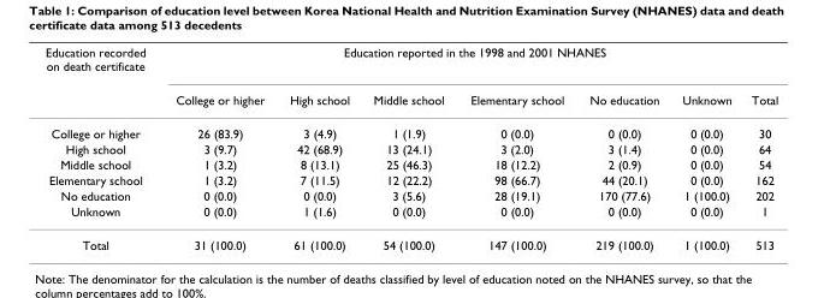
<table><thead><tr><td rowspan="2">Education recorded on death certificate</td><td colspan="7">Education reported in the 1998 and 2001 NHANES</td></tr><tr><td>College or higher</td><td>High school</td><td>Middle school</td><td>Elementary school</td><td>No education</td><td>Unknown</td><td>Total</td></tr></thead><tbody><tr><td>College or higher</td><td>26 (83.9)</td><td>3 (4.9)</td><td>1 (1.9)</td><td>0 (0.0)</td><td>0 (0.0)</td><td>0 (0.0)</td><td>30</td></tr><tr><td>High school</td><td>3 (9.7)</td><td>42 (68.9)</td><td>13 (24.1)</td><td>3 (2.0)</td><td>3 (1.4)</td><td>0 (0.0)</td><td>64</td></tr><tr><td>Middle school</td><td>1 (3.2)</td><td>8 (13.1)</td><td>25 (46.3)</td><td>18 (12.2)</td><td>2 (0.9)</td><td>0 (0.0)</td><td>54</td></tr><tr><td>Elementary school</td><td>1 (3.2)</td><td>7 (11.5)</td><td>12 (22.2)</td><td>98 (66.7)</td><td>44 (20.1)</td><td>0 (0.0)</td><td>162</td></tr><tr><td>No education</td><td>0 (0.0)</td><td>0 (0.0)</td><td>3 (5.6)</td><td>28 (19.1)</td><td>170 (77.6)</td><td>1 (100.0)</td><td>202</td></tr><tr><td>Unknown</td><td>0 (0.0)</td><td>1 (1.6)</td><td>0 (0.0)</td><td>0 (0.0)</td><td>0 (0.0)</td><td>0 (0.0)</td><td>1</td></tr><tr><td>Total</td><td>31 (100.0)</td><td>61 (100.0)</td><td>54 (100.0)</td><td>147 (100.0)</td><td>219 (100.0)</td><td>1 (100.0)</td><td>513</td></tr></tbody></table>